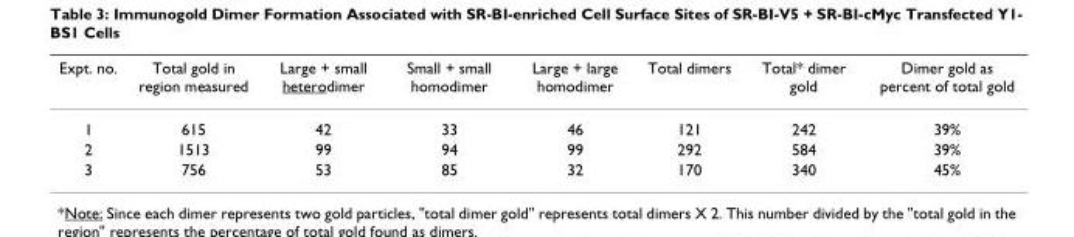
<table><thead><tr><td>Expt. no.</td><td>Total gold in region measured</td><td>Large + small heterodimer</td><td>Small + small homodimer</td><td>Large + large homodimer</td><td>Total dimers</td><td>Total* dimer gold</td><td>Dimer gold as percent of total gold</td></tr></thead><tbody><tr><td>1</td><td>615</td><td>42</td><td>33</td><td>46</td><td>121</td><td>242</td><td>39%</td></tr><tr><td>2</td><td>1513</td><td>99</td><td>94</td><td>99</td><td>292</td><td>584</td><td>39%</td></tr><tr><td>3</td><td>756</td><td>53</td><td>85</td><td>32</td><td>170</td><td>340</td><td>45%</td></tr></tbody></table>